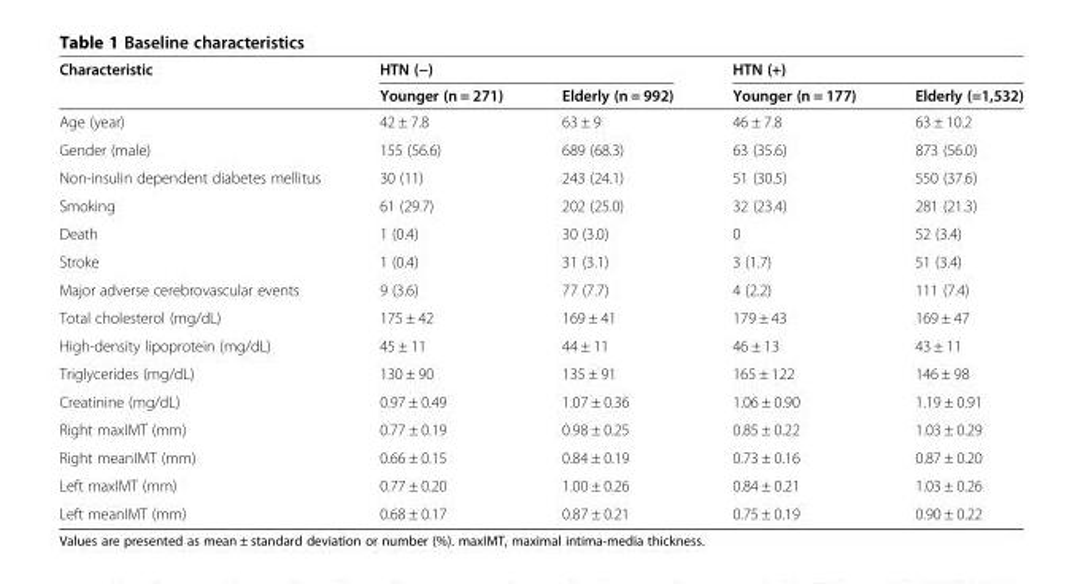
<table><thead><tr><td rowspan="2">Characteristic</td><td colspan="2">HTN (−)</td><td colspan="2">HTN (+)</td></tr><tr><td>Younger (n = 271)</td><td>Elderly (n = 992)</td><td>Younger (n = 177)</td><td>Elderly (=1,532)</td></tr></thead><tbody><tr><td>Age (year)</td><td>42 ± 7.8</td><td>63 ± 9</td><td>46 ± 7.8</td><td>63 ± 10.2</td></tr><tr><td>Gender (male)</td><td>155 (56.6)</td><td>689 (68.3)</td><td>63 (35.6)</td><td>873 (56.0)</td></tr><tr><td>Non-insulin dependent diabetes mellitus</td><td>30 (11)</td><td>243 (24.1)</td><td>51 (30.5)</td><td>550 (37.6)</td></tr><tr><td>Smoking</td><td>61 (29.7)</td><td>202 (25.0)</td><td>32 (23.4)</td><td>281 (21.3)</td></tr><tr><td>Death</td><td>1 (0.4)</td><td>30 (3.0)</td><td>0</td><td>52 (3.4)</td></tr><tr><td>Stroke</td><td>1 (0.4)</td><td>31 (3.1)</td><td>3 (1.7)</td><td>51 (3.4)</td></tr><tr><td>Major adverse cerebrovascular events</td><td>9 (3.6)</td><td>77 (7.7)</td><td>4 (2.2)</td><td>111 (7.4)</td></tr><tr><td>Total cholesterol (mg/dL)</td><td>175 ± 42</td><td>169 ± 41</td><td>179 ± 43</td><td>169 ± 47</td></tr><tr><td>High-density lipoprotein (mg/dL)</td><td>45 ± 11</td><td>44 ± 11</td><td>46 ± 13</td><td>43 ± 11</td></tr><tr><td>Triglycerides (mg/dL)</td><td>130 ± 90</td><td>135 ± 91</td><td>165 ± 122</td><td>146 ± 98</td></tr><tr><td>Creatinine (mg/dL)</td><td>0.97 ± 0.49</td><td>1.07 ± 0.36</td><td>1.06 ± 0.90</td><td>1.19 ± 0.91</td></tr><tr><td>Right maxIMT (mm)</td><td>0.77 ± 0.19</td><td>0.98 ± 0.25</td><td>0.85 ± 0.22</td><td>1.03 ± 0.29</td></tr><tr><td>Right meanIMT (mm)</td><td>0.66 ± 0.15</td><td>0.84 ± 0.19</td><td>0.73 ± 0.16</td><td>0.87 ± 0.20</td></tr><tr><td>Left maxIMT (mm)</td><td>0.77 ± 0.20</td><td>1.00 ± 0.26</td><td>0.84 ± 0.21</td><td>1.03 ± 0.26</td></tr><tr><td>Left meanIMT (mm)</td><td>0.68 ± 0.17</td><td>0.87 ± 0.21</td><td>0.75 ± 0.19</td><td>0.90 ± 0.22</td></tr></tbody></table>